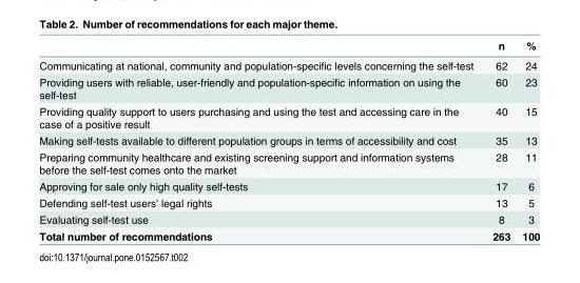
<table><thead><tr><td></td><td>n</td><td>%</td></tr></thead><tbody><tr><td>Communicating at national, community and population-specific levels concerning the self-test</td><td>62</td><td>24</td></tr><tr><td>Providing users with reliable, user-friendly and population-specific information on using the self-test</td><td>60</td><td>23</td></tr><tr><td>Providing quality support to users purchasing and using the test and accessing care in the case of a positive result</td><td>40</td><td>15</td></tr><tr><td>Making self-tests available to different population groups in terms of accessibility and cost</td><td>35</td><td>13</td></tr><tr><td>Preparing community healthcare and existing screening support and information systems before the self-test comes onto the market</td><td>28</td><td>11</td></tr><tr><td>Approving for sale only high quality self-tests</td><td>17</td><td>6</td></tr><tr><td>Defending self-test users’ legal rights</td><td>13</td><td>5</td></tr><tr><td>Evaluating self-test use</td><td>8</td><td>3</td></tr><tr><td>Total number of recommendations</td><td>263</td><td>100</td></tr></tbody></table>